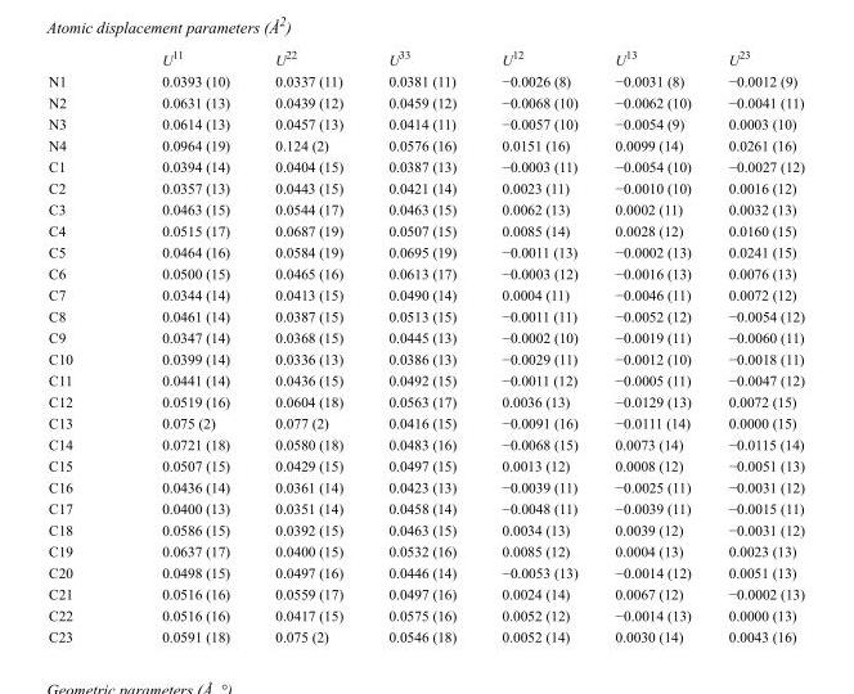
<table><thead><tr><td></td><td>U<sup>11</sup></td><td>U<sup>22</sup></td><td>U<sup>33</sup></td><td>U<sup>12</sup></td><td>U<sup>13</sup></td><td>U<sup>23</sup></td></tr></thead><tbody><tr><td>N1</td><td>0.0393 (10)</td><td>0.0337 (11)</td><td>0.0381 (11)</td><td>−0.0026 (8)</td><td>−0.0031 (8)</td><td>−0.0012 (9)</td></tr><tr><td>N2</td><td>0.0631 (13)</td><td>0.0439 (12)</td><td>0.0459 (12)</td><td>−0.0068 (10)</td><td>−0.0062 (10)</td><td>−0.0041 (11)</td></tr><tr><td>N3</td><td>0.0614 (13)</td><td>0.0457 (13)</td><td>0.0414 (11)</td><td>−0.0057 (10)</td><td>−0.0054 (9)</td><td>0.0003 (10)</td></tr><tr><td>N4</td><td>0.0964 (19)</td><td>0.124 (2)</td><td>0.0576 (16)</td><td>0.0151 (16)</td><td>0.0099 (14)</td><td>0.0261 (16)</td></tr><tr><td>C1</td><td>0.0394 (14)</td><td>0.0404 (15)</td><td>0.0387 (13)</td><td>−0.0003 (11)</td><td>−0.0054 (10)</td><td>−0.0027 (12)</td></tr><tr><td>C2</td><td>0.0357 (13)</td><td>0.0443 (15)</td><td>0.0421 (14)</td><td>0.0023 (11)</td><td>−0.0010 (10)</td><td>0.0016 (12)</td></tr><tr><td>C3</td><td>0.0463 (15)</td><td>0.0544 (17)</td><td>0.0463 (15)</td><td>0.0062 (13)</td><td>0.0002 (11)</td><td>0.0032 (13)</td></tr><tr><td>C4</td><td>0.0515 (17)</td><td>0.0687 (19)</td><td>0.0507 (15)</td><td>0.0085 (14)</td><td>0.0028 (12)</td><td>0.0160 (15)</td></tr><tr><td>C5</td><td>0.0464 (16)</td><td>0.0584 (19)</td><td>0.0695 (19)</td><td>−0.0011 (13)</td><td>−0.0002 (13)</td><td>0.0241 (15)</td></tr><tr><td>C6</td><td>0.0500 (15)</td><td>0.0465 (16)</td><td>0.0613 (17)</td><td>−0.0003 (12)</td><td>−0.0016 (13)</td><td>0.0076 (13)</td></tr><tr><td>C7</td><td>0.0344 (14)</td><td>0.0413 (15)</td><td>0.0490 (14)</td><td>0.0004 (11)</td><td>−0.0046 (11)</td><td>0.0072 (12)</td></tr><tr><td>C8</td><td>0.0461 (14)</td><td>0.0387 (15)</td><td>0.0513 (15)</td><td>−0.0011 (11)</td><td>−0.0052 (12)</td><td>−0.0054 (12)</td></tr><tr><td>C9</td><td>0.0347 (14)</td><td>0.0368 (15)</td><td>0.0445 (13)</td><td>−0.0002 (10)</td><td>−0.0019 (11)</td><td>−0.0060 (11)</td></tr><tr><td>C10</td><td>0.0399 (14)</td><td>0.0336 (13)</td><td>0.0386 (13)</td><td>−0.0029 (11)</td><td>−0.0012 (10)</td><td>−0.0018 (11)</td></tr><tr><td>C11</td><td>0.0441 (14)</td><td>0.0436 (15)</td><td>0.0492 (15)</td><td>−0.0011 (12)</td><td>−0.0005 (11)</td><td>−0.0047 (12)</td></tr><tr><td>C12</td><td>0.0519 (16)</td><td>0.0604 (18)</td><td>0.0563 (17)</td><td>0.0036 (13)</td><td>−0.0129 (13)</td><td>0.0072 (15)</td></tr><tr><td>C13</td><td>0.075 (2)</td><td>0.077 (2)</td><td>0.0416 (15)</td><td>−0.0091 (16)</td><td>−0.0111 (14)</td><td>0.0000 (15)</td></tr><tr><td>C14</td><td>0.0721 (18)</td><td>0.0580 (18)</td><td>0.0483 (16)</td><td>−0.0068 (15)</td><td>0.0073 (14)</td><td>−0.0115 (14)</td></tr><tr><td>C15</td><td>0.0507 (15)</td><td>0.0429 (15)</td><td>0.0497 (15)</td><td>0.0013 (12)</td><td>0.0008 (12)</td><td>−0.0051 (13)</td></tr><tr><td>C16</td><td>0.0436 (14)</td><td>0.0361 (14)</td><td>0.0423 (13)</td><td>−0.0039 (11)</td><td>−0.0025 (11)</td><td>−0.0031 (12)</td></tr><tr><td>C17</td><td>0.0400 (13)</td><td>0.0351 (14)</td><td>0.0458 (14)</td><td>−0.0048 (11)</td><td>−0.0039 (11)</td><td>−0.0015 (11)</td></tr><tr><td>C18</td><td>0.0586 (15)</td><td>0.0392 (15)</td><td>0.0463 (15)</td><td>0.0034 (13)</td><td>0.0039 (12)</td><td>−0.0031 (12)</td></tr><tr><td>C19</td><td>0.0637 (17)</td><td>0.0400 (15)</td><td>0.0532 (16)</td><td>0.0085 (12)</td><td>0.0004 (13)</td><td>0.0023 (13)</td></tr><tr><td>C20</td><td>0.0498 (15)</td><td>0.0497 (16)</td><td>0.0446 (14)</td><td>−0.0053 (13)</td><td>−0.0014 (12)</td><td>0.0051 (13)</td></tr><tr><td>C21</td><td>0.0516 (16)</td><td>0.0559 (17)</td><td>0.0497 (16)</td><td>0.0024 (14)</td><td>0.0067 (12)</td><td>−0.0002 (13)</td></tr><tr><td>C22</td><td>0.0516 (16)</td><td>0.0417 (15)</td><td>0.0575 (16)</td><td>0.0052 (12)</td><td>−0.0014 (13)</td><td>0.0000 (13)</td></tr><tr><td>C23</td><td>0.0591 (18)</td><td>0.075 (2)</td><td>0.0546 (18)</td><td>0.0052 (14)</td><td>0.0030 (14)</td><td>0.0043 (16)</td></tr></tbody></table>